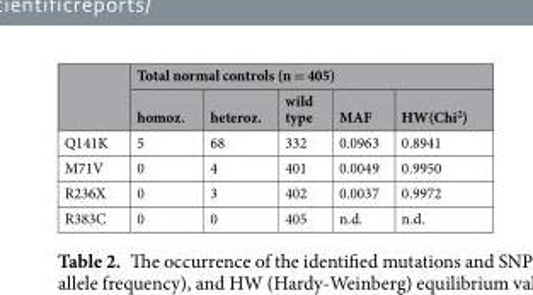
<table><thead><tr><td rowspan="2"></td><td colspan="5">Total normal controls (n = 405)</td></tr><tr><td>homoz.</td><td>heteroz.</td><td>wild type</td><td>MAF</td><td>HW(Chi<sup>2</sup>)</td></tr></thead><tbody><tr><td>Q141K</td><td>5</td><td>68</td><td>332</td><td>0.0963</td><td>0.8941</td></tr><tr><td>M71V</td><td>0</td><td>4</td><td>401</td><td>0.0049</td><td>0.9950</td></tr><tr><td>R236X</td><td>0</td><td>3</td><td>402</td><td>0.0037</td><td>0.9972</td></tr><tr><td>R383C</td><td>0</td><td>0</td><td>405</td><td>n.d.</td><td>n.d.</td></tr></tbody></table>